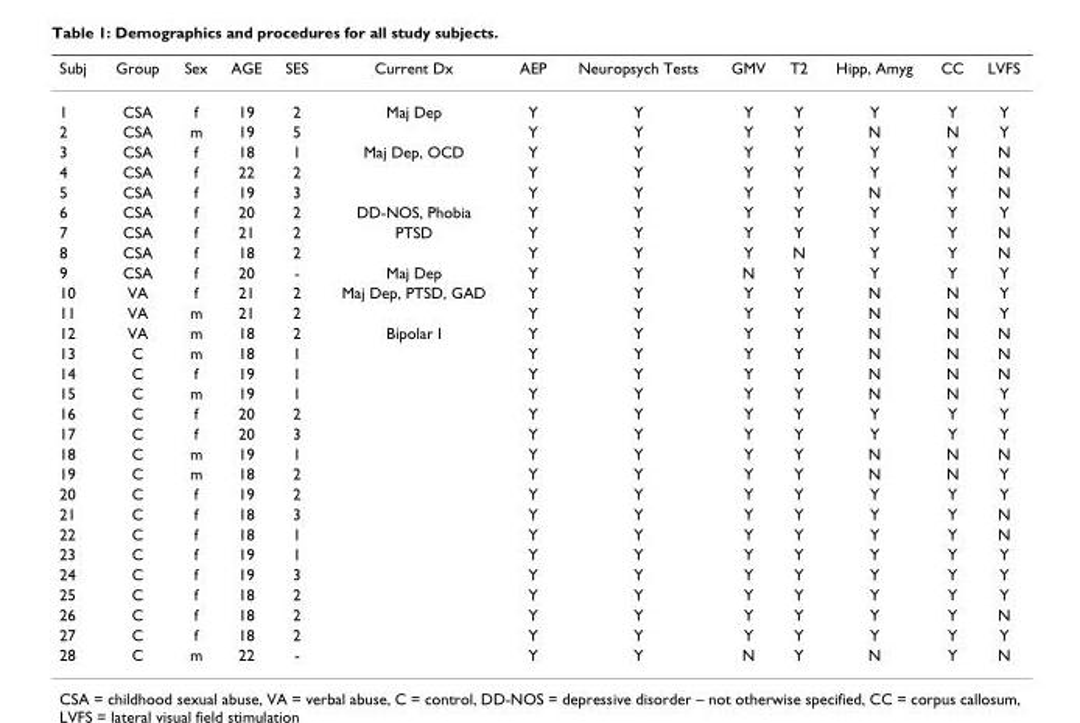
<table><thead><tr><td>Subj</td><td>Group</td><td>Sex</td><td>AGE</td><td>SES</td><td>Current Dx</td><td>AEP</td><td>Neuropsych Tests</td><td>GMV</td><td>T2</td><td>Hipp, Amyg</td><td>CC</td><td>LVFS</td></tr></thead><tbody><tr><td>1</td><td>CSA</td><td>f</td><td>19</td><td>2</td><td>Maj Dep</td><td>Y</td><td>Y</td><td>Y</td><td>Y</td><td>Y</td><td>Y</td><td>Y</td></tr><tr><td>2</td><td>CSA</td><td>m</td><td>19</td><td>5</td><td></td><td>Y</td><td>Y</td><td>Y</td><td>Y</td><td>N</td><td>N</td><td>Y</td></tr><tr><td>3</td><td>CSA</td><td>f</td><td>18</td><td>1</td><td>Maj Dep, OCD</td><td>Y</td><td>Y</td><td>Y</td><td>Y</td><td>Y</td><td>Y</td><td>N</td></tr><tr><td>4</td><td>CSA</td><td>f</td><td>22</td><td>2</td><td></td><td>Y</td><td>Y</td><td>Y</td><td>Y</td><td>Y</td><td>Y</td><td>N</td></tr><tr><td>5</td><td>CSA</td><td>f</td><td>19</td><td>3</td><td></td><td>Y</td><td>Y</td><td>Y</td><td>Y</td><td>N</td><td>Y</td><td>N</td></tr><tr><td>6</td><td>CSA</td><td>f</td><td>20</td><td>2</td><td>DD-NOS, Phobia</td><td>Y</td><td>Y</td><td>Y</td><td>Y</td><td>Y</td><td>Y</td><td>Y</td></tr><tr><td>7</td><td>CSA</td><td>f</td><td>21</td><td>2</td><td>PTSD</td><td>Y</td><td>Y</td><td>Y</td><td>Y</td><td>Y</td><td>Y</td><td>N</td></tr><tr><td>8</td><td>CSA</td><td>f</td><td>18</td><td>2</td><td></td><td>Y</td><td>Y</td><td>Y</td><td>N</td><td>Y</td><td>Y</td><td>N</td></tr><tr><td>9</td><td>CSA</td><td>f</td><td>20</td><td>-</td><td>Maj Dep</td><td>Y</td><td>Y</td><td>N</td><td>Y</td><td>Y</td><td>Y</td><td>Y</td></tr><tr><td>10</td><td>VA</td><td>f</td><td>21</td><td>2</td><td>Maj Dep, PTSD, GAD</td><td>Y</td><td>Y</td><td>Y</td><td>Y</td><td>N</td><td>N</td><td>Y</td></tr><tr><td>11</td><td>VA</td><td>m</td><td>21</td><td>2</td><td></td><td>Y</td><td>Y</td><td>Y</td><td>Y</td><td>N</td><td>N</td><td>Y</td></tr><tr><td>12</td><td>VA</td><td>m</td><td>18</td><td>2</td><td>Bipolar I</td><td>Y</td><td>Y</td><td>Y</td><td>Y</td><td>N</td><td>N</td><td>N</td></tr><tr><td>13</td><td>C</td><td>m</td><td>18</td><td>1</td><td></td><td>Y</td><td>Y</td><td>Y</td><td>Y</td><td>N</td><td>N</td><td>N</td></tr><tr><td>14</td><td>C</td><td>f</td><td>19</td><td>1</td><td></td><td>Y</td><td>Y</td><td>Y</td><td>Y</td><td>N</td><td>N</td><td>N</td></tr><tr><td>15</td><td>C</td><td>m</td><td>19</td><td>1</td><td></td><td>Y</td><td>Y</td><td>Y</td><td>Y</td><td>N</td><td>N</td><td>Y</td></tr><tr><td>16</td><td>C</td><td>f</td><td>20</td><td>2</td><td></td><td>Y</td><td>Y</td><td>Y</td><td>Y</td><td>Y</td><td>Y</td><td>Y</td></tr><tr><td>17</td><td>C</td><td>f</td><td>20</td><td>3</td><td></td><td>Y</td><td>Y</td><td>Y</td><td>Y</td><td>Y</td><td>Y</td><td>Y</td></tr><tr><td>18</td><td>C</td><td>m</td><td>19</td><td>1</td><td></td><td>Y</td><td>Y</td><td>Y</td><td>Y</td><td>N</td><td>N</td><td>N</td></tr><tr><td>19</td><td>C</td><td>m</td><td>18</td><td>2</td><td></td><td>Y</td><td>Y</td><td>Y</td><td>Y</td><td>N</td><td>N</td><td>Y</td></tr><tr><td>20</td><td>C</td><td>f</td><td>19</td><td>2</td><td></td><td>Y</td><td>Y</td><td>Y</td><td>Y</td><td>Y</td><td>Y</td><td>Y</td></tr><tr><td>21</td><td>C</td><td>f</td><td>18</td><td>3</td><td></td><td>Y</td><td>Y</td><td>Y</td><td>Y</td><td>Y</td><td>Y</td><td>N</td></tr><tr><td>22</td><td>C</td><td>f</td><td>18</td><td>1</td><td></td><td>Y</td><td>Y</td><td>Y</td><td>Y</td><td>Y</td><td>Y</td><td>N</td></tr><tr><td>23</td><td>C</td><td>f</td><td>19</td><td>1</td><td></td><td>Y</td><td>Y</td><td>Y</td><td>Y</td><td>Y</td><td>Y</td><td>Y</td></tr><tr><td>24</td><td>C</td><td>f</td><td>19</td><td>3</td><td></td><td>Y</td><td>Y</td><td>Y</td><td>Y</td><td>Y</td><td>Y</td><td>Y</td></tr><tr><td>25</td><td>C</td><td>f</td><td>18</td><td>2</td><td></td><td>Y</td><td>Y</td><td>Y</td><td>Y</td><td>Y</td><td>Y</td><td>Y</td></tr><tr><td>26</td><td>C</td><td>f</td><td>18</td><td>2</td><td></td><td>Y</td><td>Y</td><td>Y</td><td>Y</td><td>Y</td><td>Y</td><td>N</td></tr><tr><td>27</td><td>C</td><td>f</td><td>18</td><td>2</td><td></td><td>Y</td><td>Y</td><td>Y</td><td>Y</td><td>Y</td><td>Y</td><td>Y</td></tr><tr><td>28</td><td>C</td><td>m</td><td>22</td><td>-</td><td></td><td>Y</td><td>Y</td><td>N</td><td>Y</td><td>N</td><td>Y</td><td>N</td></tr></tbody></table>